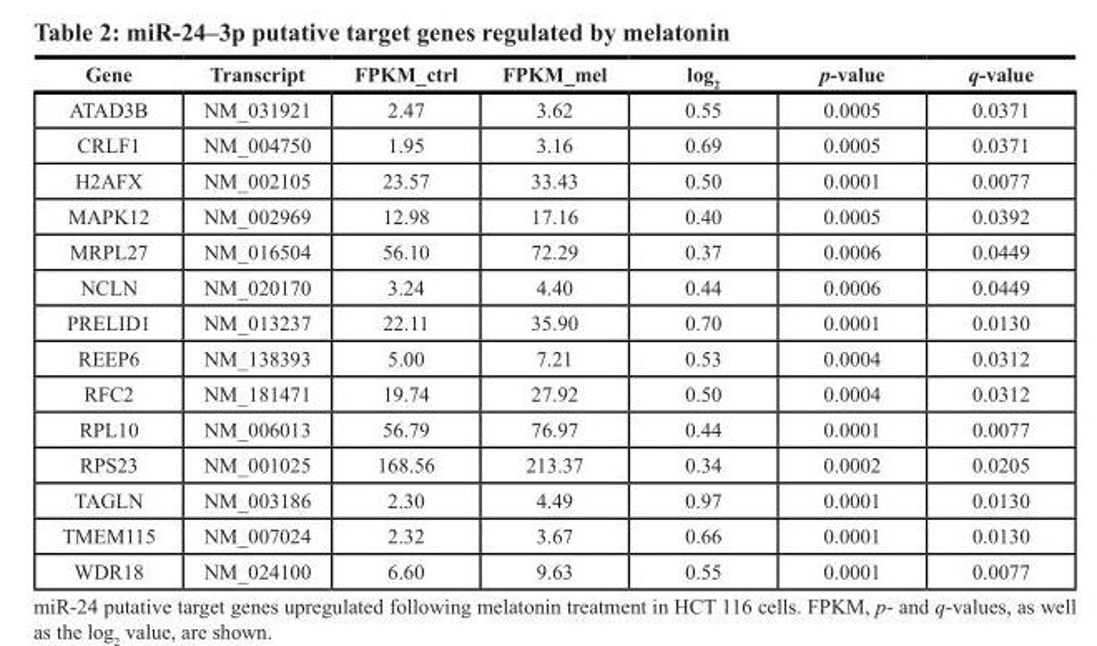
<table><thead><tr><td>Gene</td><td>Transcript</td><td>FPKM_ctrl</td><td>FPKM_mel</td><td>log<sub>2</sub></td><td>p-value</td><td>q-value</td></tr></thead><tbody><tr><td>ATAD3B</td><td>NM_031921</td><td>2.47</td><td>3.62</td><td>0.55</td><td>0.0005</td><td>0.0371</td></tr><tr><td>CRLF1</td><td>NM_004750</td><td>1.95</td><td>3.16</td><td>0.69</td><td>0.0005</td><td>0.0371</td></tr><tr><td>H2AFX</td><td>NM_002105</td><td>23.57</td><td>33.43</td><td>0.50</td><td>0.0001</td><td>0.0077</td></tr><tr><td>MAPK12</td><td>NM_002969</td><td>12.98</td><td>17.16</td><td>0.40</td><td>0.0005</td><td>0.0392</td></tr><tr><td>MRPL27</td><td>NM_016504</td><td>56.10</td><td>72.29</td><td>0.37</td><td>0.0006</td><td>0.0449</td></tr><tr><td>NCLN</td><td>NM_020170</td><td>3.24</td><td>4.40</td><td>0.44</td><td>0.0006</td><td>0.0449</td></tr><tr><td>PRELID1</td><td>NM_013237</td><td>22.11</td><td>35.90</td><td>0.70</td><td>0.0001</td><td>0.0130</td></tr><tr><td>REEP6</td><td>NM_138393</td><td>5.00</td><td>7.21</td><td>0.53</td><td>0.0004</td><td>0.0312</td></tr><tr><td>RFC2</td><td>NM_181471</td><td>19.74</td><td>27.92</td><td>0.50</td><td>0.0004</td><td>0.0312</td></tr><tr><td>RPL10</td><td>NM_006013</td><td>56.79</td><td>76.97</td><td>0.44</td><td>0.0001</td><td>0.0077</td></tr><tr><td>RPS23</td><td>NM_001025</td><td>168.56</td><td>213.37</td><td>0.34</td><td>0.0002</td><td>0.0205</td></tr><tr><td>TAGLN</td><td>NM_003186</td><td>2.30</td><td>4.49</td><td>0.97</td><td>0.0001</td><td>0.0130</td></tr><tr><td>TMEM115</td><td>NM_007024</td><td>2.32</td><td>3.67</td><td>0.66</td><td>0.0001</td><td>0.0130</td></tr><tr><td>WDR18</td><td>NM_024100</td><td>6.60</td><td>9.63</td><td>0.55</td><td>0.0001</td><td>0.0077</td></tr></tbody></table>